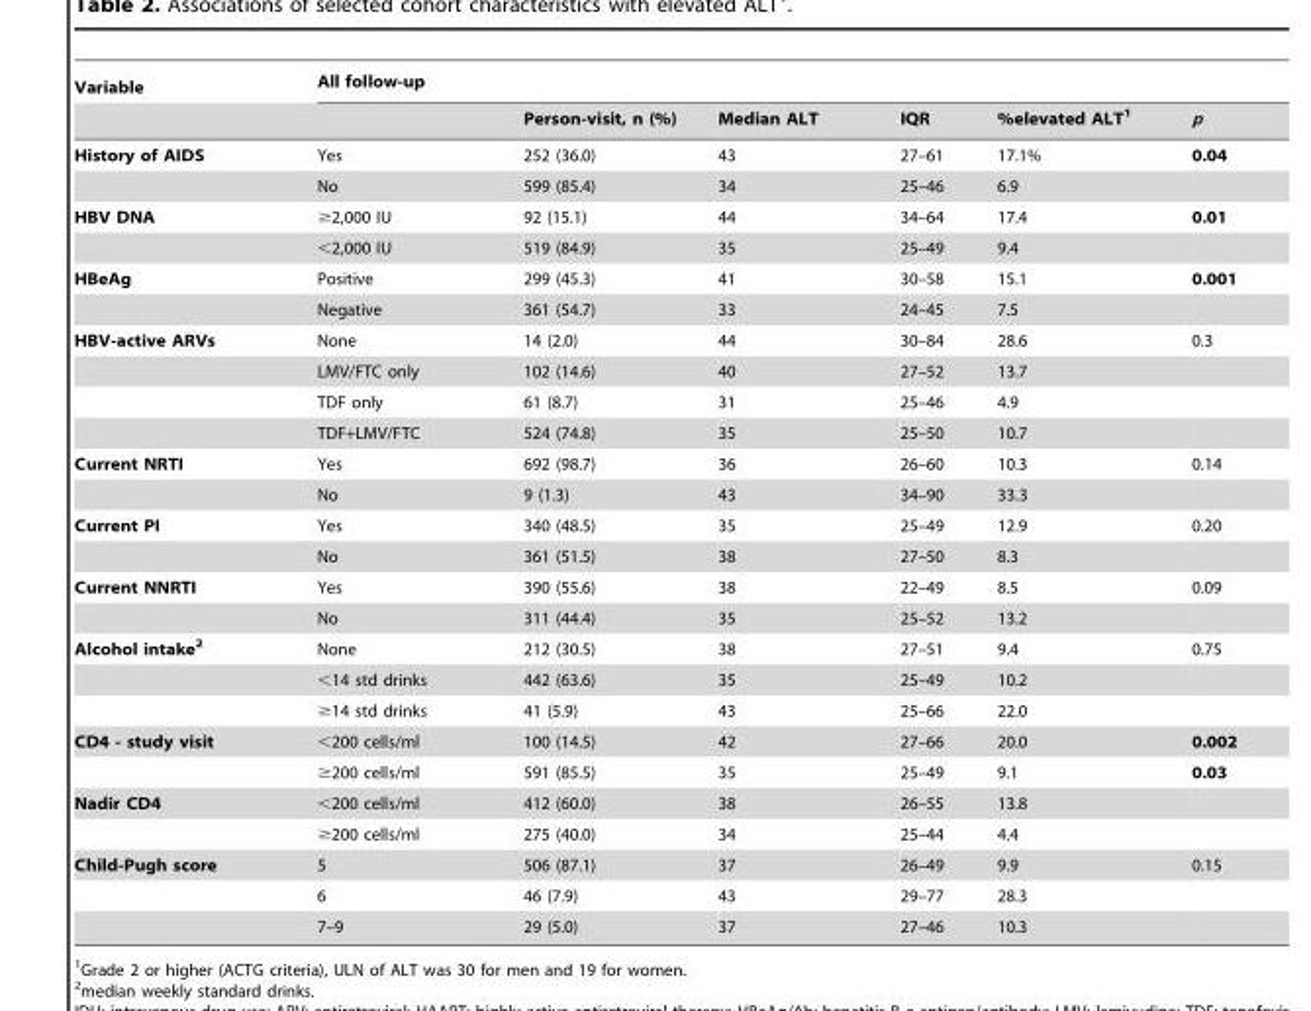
<table><thead><tr><td rowspan="2">Variable</td><td colspan="6">All follow-up</td></tr><tr><td></td><td>Person-visit, n (%)</td><td>Median ALT</td><td>IQR</td><td>%elevated ALT<sup>1</sup></td><td>p</td></tr></thead><tbody><tr><td rowspan="2">History of AIDS</td><td>Yes</td><td>252 (36.0)</td><td>43</td><td>27–61</td><td>17.1%</td><td>0.04</td></tr><tr><td>No</td><td>599 (85.4)</td><td>34</td><td>25–46</td><td>6.9</td><td></td></tr><tr><td rowspan="2">HBV DNA</td><td>≥2,000 IU</td><td>92 (15.1)</td><td>44</td><td>34–64</td><td>17.4</td><td>0.01</td></tr><tr><td>&lt;2,000 IU</td><td>519 (84.9)</td><td>35</td><td>25–49</td><td>9.4</td><td></td></tr><tr><td rowspan="2">HBeAg</td><td>Positive</td><td>299 (45.3)</td><td>41</td><td>30–58</td><td>15.1</td><td>0.001</td></tr><tr><td>Negative</td><td>361 (54.7)</td><td>33</td><td>24–45</td><td>7.5</td><td></td></tr><tr><td rowspan="4">HBV-active ARVs</td><td>None</td><td>14 (2.0)</td><td>44</td><td>30–84</td><td>28.6</td><td>0.3</td></tr><tr><td>LMV/FTC only</td><td>102 (14.6)</td><td>40</td><td>27–52</td><td>13.7</td><td></td></tr><tr><td>TDF only</td><td>61 (8.7)</td><td>31</td><td>25–46</td><td>4.9</td><td></td></tr><tr><td>TDF+LMV/FTC</td><td>524 (74.8)</td><td>35</td><td>25–50</td><td>10.7</td><td></td></tr><tr><td rowspan="2">Current NRTI</td><td>Yes</td><td>692 (98.7)</td><td>36</td><td>26–60</td><td>10.3</td><td>0.14</td></tr><tr><td>No</td><td>9 (1.3)</td><td>43</td><td>34–90</td><td>33.3</td><td></td></tr><tr><td rowspan="2">Current PI</td><td>Yes</td><td>340 (48.5)</td><td>35</td><td>25–49</td><td>12.9</td><td>0.20</td></tr><tr><td>No</td><td>361 (51.5)</td><td>38</td><td>27–50</td><td>8.3</td><td></td></tr><tr><td rowspan="2">Current NNRTI</td><td>Yes</td><td>390 (55.6)</td><td>38</td><td>22–49</td><td>8.5</td><td>0.09</td></tr><tr><td>No</td><td>311 (44.4)</td><td>35</td><td>25–52</td><td>13.2</td><td></td></tr><tr><td rowspan="3">Alcohol intake2</td><td>None</td><td>212 (30.5)</td><td>38</td><td>27–51</td><td>9.4</td><td>0.75</td></tr><tr><td>&lt;14 std drinks</td><td>442 (63.6)</td><td>35</td><td>25–49</td><td>10.2</td><td></td></tr><tr><td>≥14 std drinks</td><td>41 (5.9)</td><td>43</td><td>25–66</td><td>22.0</td><td></td></tr><tr><td rowspan="2">CD4 - study visit</td><td>&lt;200 cells/ml</td><td>100 (14.5)</td><td>42</td><td>27–66</td><td>20.0</td><td>0.002</td></tr><tr><td>≥200 cells/ml</td><td>591 (85.5)</td><td>35</td><td>25–49</td><td>9.1</td><td>0.03</td></tr><tr><td rowspan="2">Nadir CD4</td><td>&lt;200 cells/ml</td><td>412 (60.0)</td><td>38</td><td>26–55</td><td>13.8</td><td></td></tr><tr><td>≥200 cells/ml</td><td>275 (40.0)</td><td>34</td><td>25–44</td><td>4.4</td><td></td></tr><tr><td rowspan="3">Child-Pugh score</td><td>5</td><td>506 (87.1)</td><td>37</td><td>26–49</td><td>9.9</td><td>0.15</td></tr><tr><td>6</td><td>46 (7.9)</td><td>43</td><td>29–77</td><td>28.3</td><td></td></tr><tr><td>7–9</td><td>29 (5.0)</td><td>37</td><td>27–46</td><td>10.3</td><td></td></tr></tbody></table>